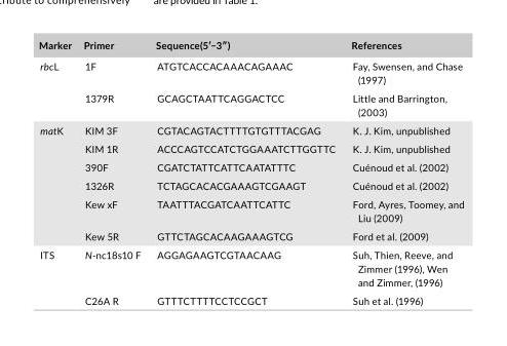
<table><thead><tr><td>Marker</td><td>Primer</td><td>Sequence(5′−3″)</td><td>References</td></tr></thead><tbody><tr><td rowspan="2">rbcL</td><td>1F</td><td>ATGTCACCACAAACAGAAAC</td><td>Fay, Swensen, and Chase (1997)</td></tr><tr><td>1379R</td><td>GCAGCTAATTCAGGACTCC</td><td>Little and Barrington, (2003)</td></tr><tr><td rowspan="6">matK</td><td>KIM 3F</td><td>CGTACAGTACTTTTGTGTTTACGAG</td><td>K. J. Kim, unpublished</td></tr><tr><td>KIM 1R</td><td>ACCCAGTCCATCTGGAAATCTTGGTTC</td><td>K. J. Kim, unpublished</td></tr><tr><td>390F</td><td>CGATCTATTCATTCAATATTTC</td><td>Cuénoud et al. (2002)</td></tr><tr><td>1326R</td><td>TCTAGCACACGAAAGTCGAAGT</td><td>Cuénoud et al. (2002)</td></tr><tr><td>Kew xF</td><td>TAATTTACGATCAATTCATTC</td><td>Ford, Ayres, Toomey, and Liu (2009)</td></tr><tr><td>Kew 5R</td><td>GTTCTAGCACAAGAAAGTCG</td><td>Ford et al. (2009)</td></tr><tr><td rowspan="2">ITS</td><td>N‐nc18s10 F</td><td>AGGAGAAGTCGTAACAAG</td><td>Suh, Thien, Reeve, and Zimmer (1996), Wen and Zimmer, (1996)</td></tr><tr><td>C26A R</td><td>GTTTCTTTTCCTCCGCT</td><td>Suh et al. (1996)</td></tr></tbody></table>